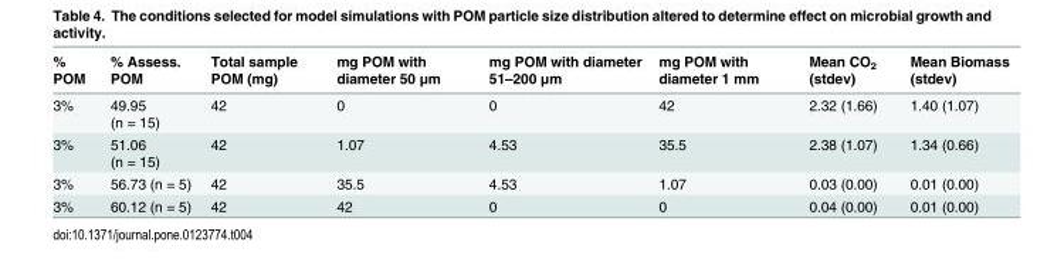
<table><thead><tr><td>% POM</td><td>% Assess. POM</td><td>Total sample POM (mg)</td><td>mg POM with diameter 50 μm</td><td>mg POM with diameter 51–200 μm</td><td>mg POM with diameter 1 mm</td><td>Mean CO<sub>2</sub> (stdev)</td><td>Mean Biomass (stdev)</td></tr></thead><tbody><tr><td>3%</td><td>49.95 (n = 15)</td><td>42</td><td>0</td><td>0</td><td>42</td><td>2.32 (1.66)</td><td>1.40 (1.07)</td></tr><tr><td>3%</td><td>51.06 (n = 15)</td><td>42</td><td>1.07</td><td>4.53</td><td>35.5</td><td>2.38 (1.07)</td><td>1.34 (0.66)</td></tr><tr><td>3%</td><td>56.73 (n = 5)</td><td>42</td><td>35.5</td><td>4.53</td><td>1.07</td><td>0.03 (0.00)</td><td>0.01 (0.00)</td></tr><tr><td>3%</td><td>60.12 (n = 5)</td><td>42</td><td>42</td><td>0</td><td>0</td><td>0.04 (0.00)</td><td>0.01 (0.00)</td></tr></tbody></table>